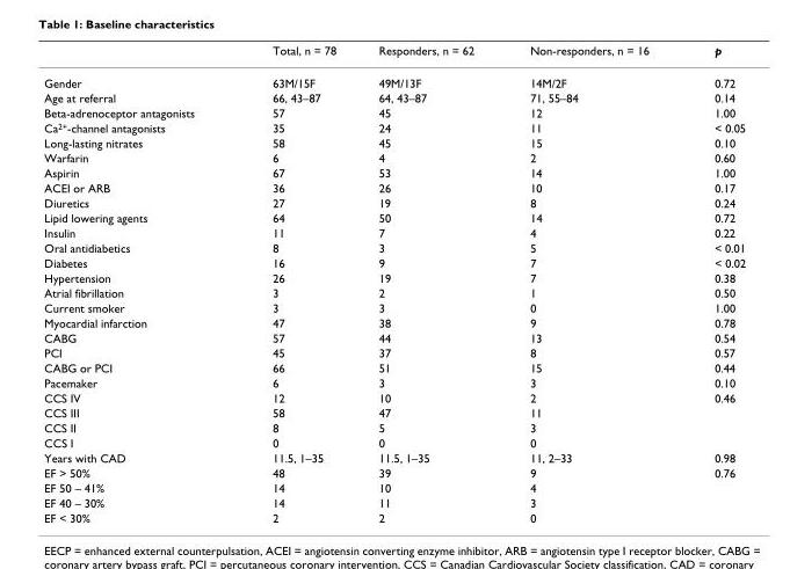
<table><thead><tr><td></td><td>Total, n = 78</td><td>Responders, n = 62</td><td>Non-responders, n = 16</td><td>p</td></tr></thead><tbody><tr><td>Gender</td><td>63M/15F</td><td>49M/13F</td><td>14M/2F</td><td>0.72</td></tr><tr><td>Age at referral</td><td>66, 43–87</td><td>64, 43–87</td><td>71, 55–84</td><td>0.14</td></tr><tr><td>Beta-adrenoceptor antagonists</td><td>57</td><td>45</td><td>12</td><td>1.00</td></tr><tr><td>Ca<sup>2+</sup>-channel antagonists</td><td>35</td><td>24</td><td>11</td><td>&lt; 0.05</td></tr><tr><td>Long-lasting nitrates</td><td>58</td><td>45</td><td>15</td><td>0.10</td></tr><tr><td>Warfarin</td><td>6</td><td>4</td><td>2</td><td>0.60</td></tr><tr><td>Aspirin</td><td>67</td><td>53</td><td>14</td><td>1.00</td></tr><tr><td>ACEI or ARB</td><td>36</td><td>26</td><td>10</td><td>0.17</td></tr><tr><td>Diuretics</td><td>27</td><td>19</td><td>8</td><td>0.24</td></tr><tr><td>Lipid lowering agents</td><td>64</td><td>50</td><td>14</td><td>0.72</td></tr><tr><td>Insulin</td><td>11</td><td>7</td><td>4</td><td>0.22</td></tr><tr><td>Oral antidiabetics</td><td>8</td><td>3</td><td>5</td><td>&lt; 0.01</td></tr><tr><td>Diabetes</td><td>16</td><td>9</td><td>7</td><td>&lt; 0.02</td></tr><tr><td>Hypertension</td><td>26</td><td>19</td><td>7</td><td>0.38</td></tr><tr><td>Atrial fibrillation</td><td>3</td><td>2</td><td>1</td><td>0.50</td></tr><tr><td>Current smoker</td><td>3</td><td>3</td><td>0</td><td>1.00</td></tr><tr><td>Myocardial infarction</td><td>47</td><td>38</td><td>9</td><td>0.78</td></tr><tr><td>CABG</td><td>57</td><td>44</td><td>13</td><td>0.54</td></tr><tr><td>PCI</td><td>45</td><td>37</td><td>8</td><td>0.57</td></tr><tr><td>CABG or PCI</td><td>66</td><td>51</td><td>15</td><td>0.44</td></tr><tr><td>Pacemaker</td><td>6</td><td>3</td><td>3</td><td>0.10</td></tr><tr><td>CCS IV</td><td>12</td><td>10</td><td>2</td><td>0.46</td></tr><tr><td>CCS III</td><td>58</td><td>47</td><td>11</td><td></td></tr><tr><td>CCS II</td><td>8</td><td>5</td><td>3</td><td></td></tr><tr><td>CCS I</td><td>0</td><td>0</td><td>0</td><td></td></tr><tr><td>Years with CAD</td><td>11.5, 1–35</td><td>11.5, 1–35</td><td>11, 2–33</td><td>0.98</td></tr><tr><td>EF &gt; 50%</td><td>48</td><td>39</td><td>9</td><td>0.76</td></tr><tr><td>EF 50 – 41%</td><td>14</td><td>10</td><td>4</td><td></td></tr><tr><td>EF 40 – 30%</td><td>14</td><td>11</td><td>3</td><td></td></tr><tr><td>EF &lt; 30%</td><td>2</td><td>2</td><td>0</td><td></td></tr></tbody></table>